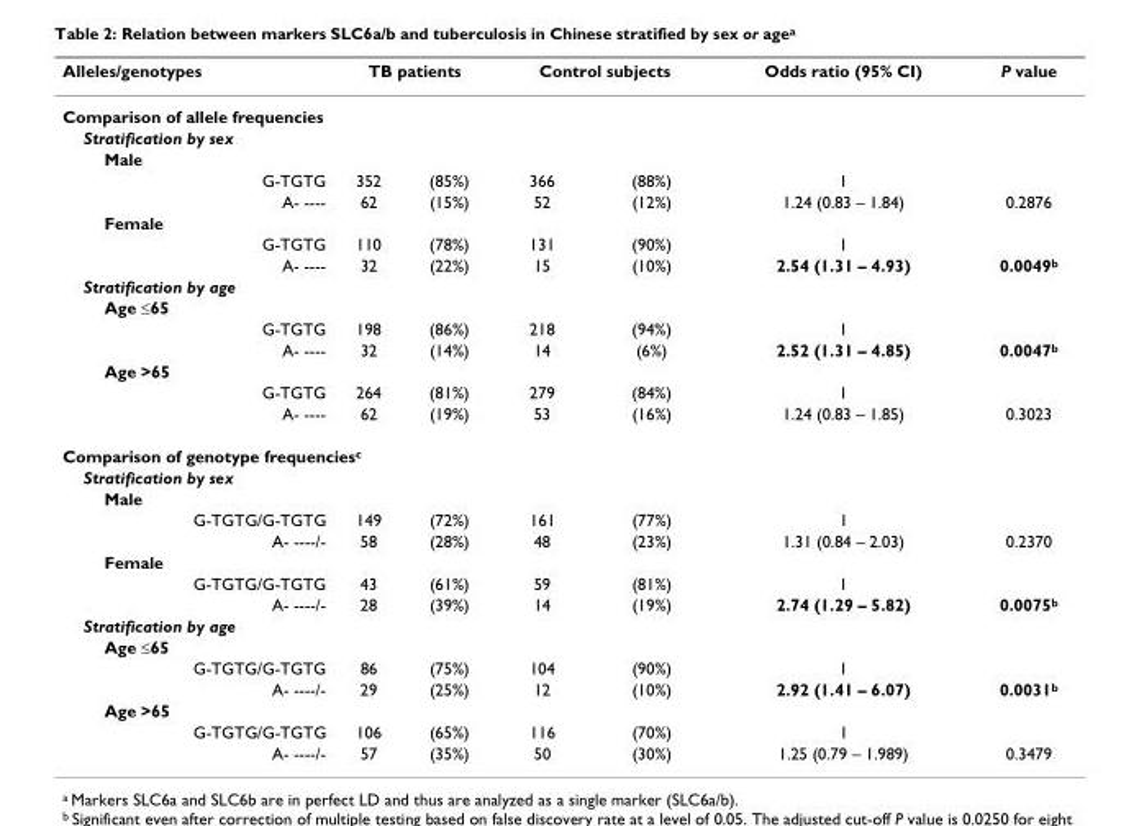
<table><thead><tr><td>Alleles/genotypes</td><td colspan="2">TB patients</td><td colspan="2">Control subjects</td><td>Odds ratio (95% CI)</td><td>P value</td></tr><tr><td colspan="7">Comparison of allele frequencies</td></tr><tr><td>Stratification by sex</td><td></td><td></td><td></td><td></td><td></td><td></td></tr></thead><tbody><tr><td colspan="7">Male</td></tr><tr><td>G-TGTG</td><td>352</td><td>(85%)</td><td>366</td><td>(88%)</td><td>1</td><td></td></tr><tr><td>A- ----</td><td>62</td><td>(15%)</td><td>52</td><td>(12%)</td><td>1.24 (0.83 – 1.84)</td><td>0.2876</td></tr><tr><td colspan="7">Female</td></tr><tr><td>G-TGTG</td><td>110</td><td>(78%)</td><td>131</td><td>(90%)</td><td>1</td><td></td></tr><tr><td>A- ----</td><td>32</td><td>(22%)</td><td>15</td><td>(10%)</td><td>2.54 (1.31 – 4.93)</td><td>0.0049<sup>b</sup></td></tr><tr><td colspan="7">Stratification by age</td></tr><tr><td colspan="7">Age ≤65</td></tr><tr><td>G-TGTG</td><td>198</td><td>(86%)</td><td>218</td><td>(94%)</td><td>1</td><td></td></tr><tr><td>A- ----</td><td>32</td><td>(14%)</td><td>14</td><td>(6%)</td><td>2.52 (1.31 – 4.85)</td><td>0.0047<sup>b</sup></td></tr><tr><td colspan="7">Age &gt;65</td></tr><tr><td>G-TGTG</td><td>264</td><td>(81%)</td><td>279</td><td>(84%)</td><td>1</td><td></td></tr><tr><td>A- ----</td><td>62</td><td>(19%)</td><td>53</td><td>(16%)</td><td>1.24 (0.83 – 1.85)</td><td>0.3023</td></tr><tr><td colspan="7">Comparison of genotype frequencies<sup>c</sup></td></tr><tr><td colspan="7">Stratification by sex</td></tr><tr><td colspan="7">Male</td></tr><tr><td>G-TGTG/G-TGTG</td><td>149</td><td>(72%)</td><td>161</td><td>(77%)</td><td>1</td><td></td></tr><tr><td>A- ----/-</td><td>58</td><td>(28%)</td><td>48</td><td>(23%)</td><td>1.31 (0.84 – 2.03)</td><td>0.2370</td></tr><tr><td colspan="7">Female</td></tr><tr><td>G-TGTG/G-TGTG</td><td>43</td><td>(61%)</td><td>59</td><td>(81%)</td><td>1</td><td></td></tr><tr><td>A- ----/-</td><td>28</td><td>(39%)</td><td>14</td><td>(19%)</td><td>2.74 (1.29 – 5.82)</td><td>0.0075<sup>b</sup></td></tr><tr><td colspan="7">Stratification by age</td></tr><tr><td colspan="7">Age ≤65</td></tr><tr><td>G-TGTG/G-TGTG</td><td>86</td><td>(75%)</td><td>104</td><td>(90%)</td><td>1</td><td></td></tr><tr><td>A- ----/-</td><td>29</td><td>(25%)</td><td>12</td><td>(10%)</td><td>2.92 (1.41 – 6.07)</td><td>0.0031<sup>b</sup></td></tr><tr><td colspan="7">Age &gt;65</td></tr><tr><td>G-TGTG/G-TGTG</td><td>106</td><td>(65%)</td><td>116</td><td>(70%)</td><td>1</td><td></td></tr><tr><td>A- ----/-</td><td>57</td><td>(35%)</td><td>50</td><td>(30%)</td><td>1.25 (0.79 – 1.989)</td><td>0.3479</td></tr></tbody></table>